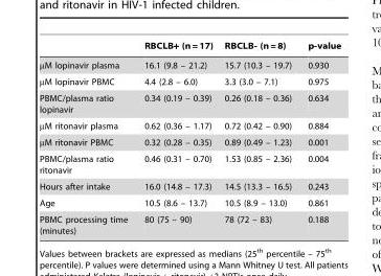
<table><thead><tr><td></td><td>RBCLB+ (n = 17)</td><td>RBCLB- (n = 8)</td><td>p-value</td></tr></thead><tbody><tr><td>µM lopinavir plasma</td><td>16.1 (9.8 – 21.2)</td><td>15.7 (10.3 – 19.7)</td><td>0.930</td></tr><tr><td>µM lopinavir PBMC</td><td>4.4 (2.8 – 6.0)</td><td>3.3 (3.0 – 7.1)</td><td>0.975</td></tr><tr><td>PBMC/plasma ratio lopinavir</td><td>0.34 (0.19 – 0.39)</td><td>0.26 (0.18 – 0.36)</td><td>0.634</td></tr><tr><td>µM ritonavir plasma</td><td>0.62 (0.36 – 1.17)</td><td>0.72 (0.42 – 0.90)</td><td>0.884</td></tr><tr><td>µM ritonavir PBMC</td><td>0.32 (0.28 – 0.35)</td><td>0.89 (0.49 – 1.23)</td><td>0.001</td></tr><tr><td>PBMC/plasma ratio ritonavir</td><td>0.46 (0.31 – 0.70)</td><td>1.53 (0.85 – 2.36)</td><td>0.004</td></tr><tr><td>Hours after intake</td><td>16.0 (14.8 – 17.3)</td><td>14.5 (13.3 – 16.5)</td><td>0.243</td></tr><tr><td>Age</td><td>10.5 (8.6 – 13.7)</td><td>10.5 (8.9 – 13.0)</td><td>0.861</td></tr><tr><td>PBMC processing time (minutes)</td><td>80 (75 – 90)</td><td>78 (72 – 83)</td><td>0.188</td></tr></tbody></table>